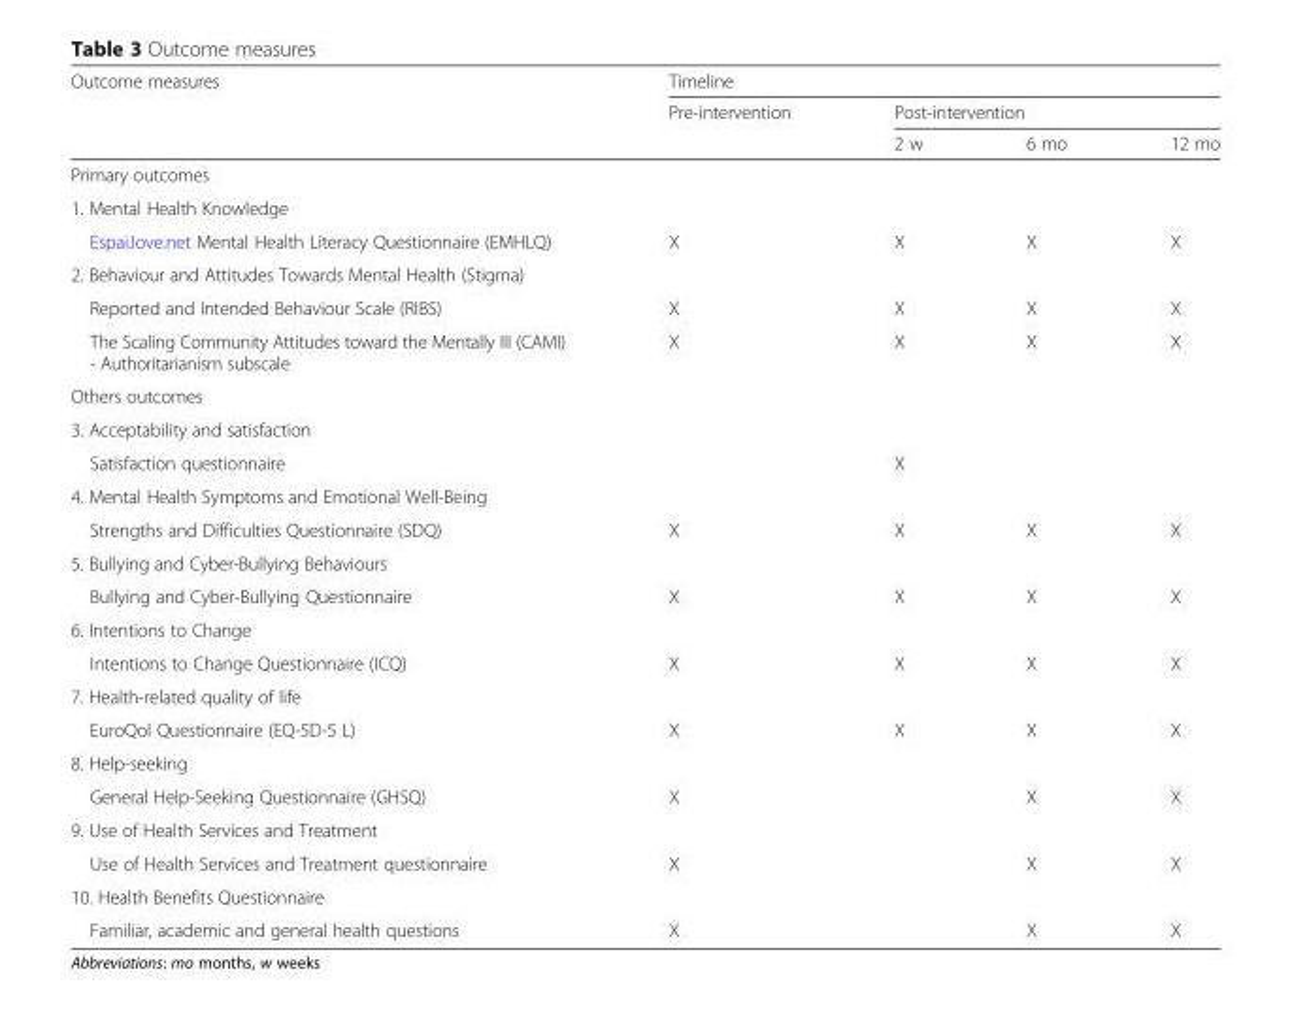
<table><thead><tr><td rowspan="3">Outcome measures</td><td colspan="4">Timeline</td></tr><tr><td rowspan="2">Pre-intervention</td><td colspan="3">Post-intervention</td></tr><tr><td>2 w</td><td>6 mo</td><td>12 mo</td></tr></thead><tbody><tr><td colspan="5">Primary outcomes</td></tr><tr><td colspan="5">1. Mental Health Knowledge</td></tr><tr><td>EspaiJove.net Mental Health Literacy Questionnaire (EMHLQ)</td><td>X</td><td>X</td><td>X</td><td>X</td></tr><tr><td colspan="5">2. Behaviour and Attitudes Towards Mental Health (Stigma)</td></tr><tr><td>Reported and Intended Behaviour Scale (RIBS)</td><td>X</td><td>X</td><td>X</td><td>X</td></tr><tr><td>The Scaling Community Attitudes toward the Mentally III (CAMI) - Authoritarianism subscale</td><td>X</td><td>X</td><td>X</td><td>X</td></tr><tr><td colspan="5">Others outcomes</td></tr><tr><td colspan="5">3. Acceptability and satisfaction</td></tr><tr><td>Satisfaction questionnaire</td><td></td><td>X</td><td></td><td></td></tr><tr><td colspan="5">4. Mental Health Symptoms and Emotional Well-Being</td></tr><tr><td>Strengths and Difficulties Questionnaire (SDQ)</td><td>X</td><td>X</td><td>X</td><td>X</td></tr><tr><td colspan="5">5. Bullying and Cyber-Bullying Behaviours</td></tr><tr><td>Bullying and Cyber-Bullying Questionnaire</td><td>X</td><td>X</td><td>X</td><td>X</td></tr><tr><td colspan="5">6. Intentions to Change</td></tr><tr><td>Intentions to Change Questionnaire (ICQ)</td><td>X</td><td>X</td><td>X</td><td>X</td></tr><tr><td colspan="5">7. Health-related quality of life</td></tr><tr><td>EuroQol Questionnaire (EQ-5D-5 L)</td><td>X</td><td>X</td><td>X</td><td>X</td></tr><tr><td colspan="5">8. Help-seeking</td></tr><tr><td>General Help-Seeking Questionnaire (GHSQ)</td><td>X</td><td></td><td>X</td><td>X</td></tr><tr><td colspan="5">9. Use of Health Services and Treatment</td></tr><tr><td>Use of Health Services and Treatment questionnaire</td><td>X</td><td></td><td>X</td><td>X</td></tr><tr><td colspan="5">10. Health Benefits Questionnaire</td></tr><tr><td>Familiar, academic and general health questions</td><td>X</td><td></td><td>X</td><td>X</td></tr></tbody></table>